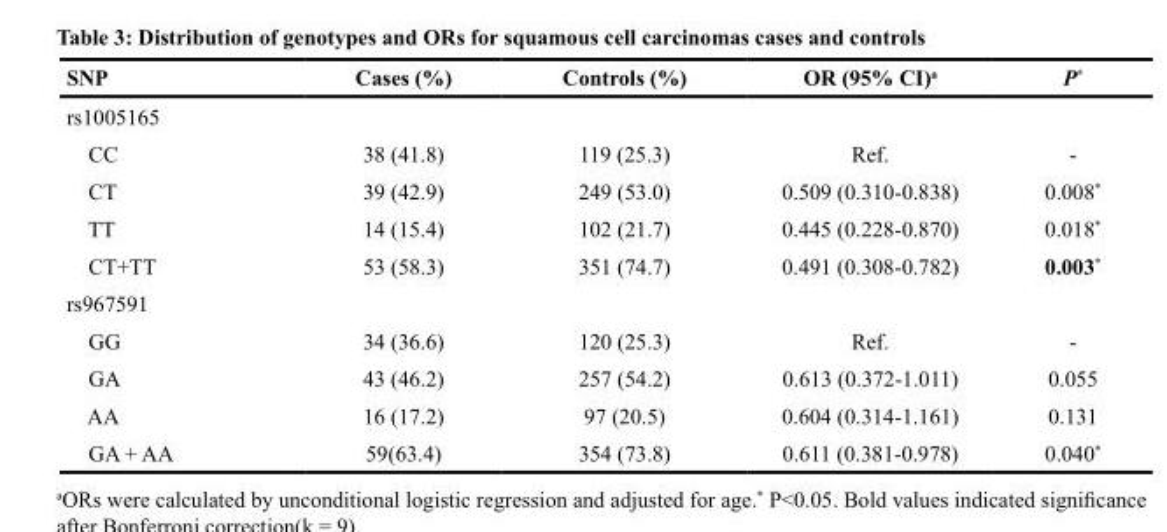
<table><thead><tr><td>SNP</td><td>Cases (%)</td><td>Controls (%)</td><td>OR (95% CI)<sup>a</sup></td><td>P*</td></tr></thead><tbody><tr><td colspan="5">rs1005165</td></tr><tr><td>CC</td><td>38 (41.8)</td><td>119 (25.3)</td><td>Ref.</td><td>-</td></tr><tr><td>CT</td><td>39 (42.9)</td><td>249 (53.0)</td><td>0.509 (0.310-0.838)</td><td>0.008*</td></tr><tr><td>TT</td><td>14 (15.4)</td><td>102 (21.7)</td><td>0.445 (0.228-0.870)</td><td>0.018*</td></tr><tr><td>CT+TT</td><td>53 (58.3)</td><td>351 (74.7)</td><td>0.491 (0.308-0.782)</td><td>0.003*</td></tr><tr><td colspan="5">rs967591</td></tr><tr><td>GG</td><td>34 (36.6)</td><td>120 (25.3)</td><td>Ref.</td><td>-</td></tr><tr><td>GA</td><td>43 (46.2)</td><td>257 (54.2)</td><td>0.613 (0.372-1.011)</td><td>0.055</td></tr><tr><td>AA</td><td>16 (17.2)</td><td>97 (20.5)</td><td>0.604 (0.314-1.161)</td><td>0.131</td></tr><tr><td>GA + AA</td><td>59(63.4)</td><td>354 (73.8)</td><td>0.611 (0.381-0.978)</td><td>0.040*</td></tr></tbody></table>